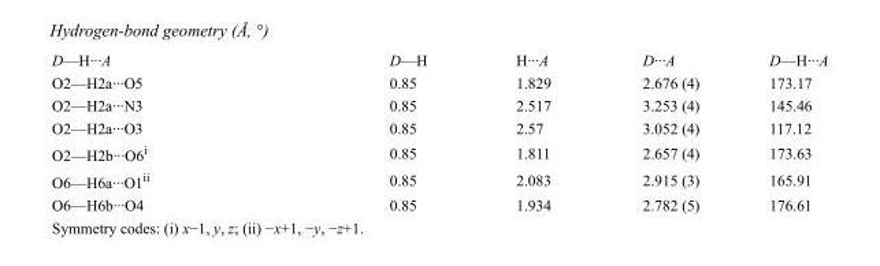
<table><tbody><tr><td>D—H···A</td><td>D—H</td><td>H···A</td><td>D···A</td><td>D—H···A</td></tr><tr><td>O2—H2a···O5</td><td>0.85</td><td>1.829</td><td>2.676 (4)</td><td>173.17</td></tr><tr><td>O2—H2a···N3</td><td>0.85</td><td>2.517</td><td>3.253 (4)</td><td>145.46</td></tr><tr><td>O2—H2a···O3</td><td>0.85</td><td>2.57</td><td>3.052 (4)</td><td>117.12</td></tr><tr><td>O2—H2b···O6<sup>i</sup></td><td>0.85</td><td>1.811</td><td>2.657 (4)</td><td>173.63</td></tr><tr><td>O6—H6a···O1<sup>ii</sup></td><td>0.85</td><td>2.083</td><td>2.915 (3)</td><td>165.91</td></tr><tr><td>O6—H6b···O4</td><td>0.85</td><td>1.934</td><td>2.782 (5)</td><td>176.61</td></tr></tbody></table>